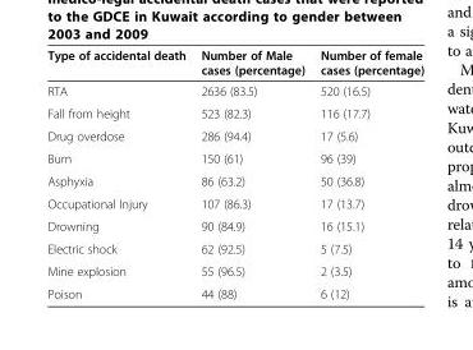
<table><thead><tr><td>Type of accidental death</td><td>Number of Male cases (percentage)</td><td>Number of female cases (percentage)</td></tr></thead><tbody><tr><td>RTA</td><td>2636 (83.5)</td><td>520 (16.5)</td></tr><tr><td>Fall from height</td><td>523 (82.3)</td><td>116 (17.7)</td></tr><tr><td>Drug overdose</td><td>286 (94.4)</td><td>17 (5.6)</td></tr><tr><td>Burn</td><td>150 (61)</td><td>96 (39)</td></tr><tr><td>Asphyxia</td><td>86 (63.2)</td><td>50 (36.8)</td></tr><tr><td>Occupational Injury</td><td>107 (86.3)</td><td>17 (13.7)</td></tr><tr><td>Drowning</td><td>90 (84.9)</td><td>16 (15.1)</td></tr><tr><td>Electric shock</td><td>62 (92.5)</td><td>5 (7.5)</td></tr><tr><td>Mine explosion</td><td>55 (96.5)</td><td>2 (3.5)</td></tr><tr><td>Poison</td><td>44 (88)</td><td>6 (12)</td></tr></tbody></table>